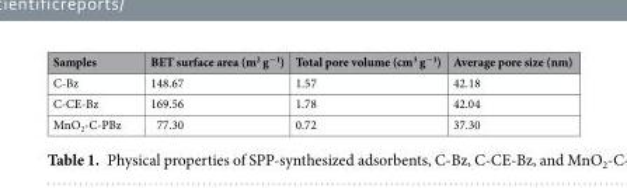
<table><thead><tr><td>Samples</td><td>BET surface area (m<sup>2</sup> g<sup>−1</sup>)</td><td>Total pore volume (cm<sup>3</sup> g<sup>−1</sup>)</td><td>Average pore size (nm)</td></tr></thead><tbody><tr><td>C-Bz</td><td>148.67</td><td>1.57</td><td>42.18</td></tr><tr><td>C-CE-Bz</td><td>169.56</td><td>1.78</td><td>42.04</td></tr><tr><td>MnO<sub>2</sub>-C-PBz</td><td>77.30</td><td>0.72</td><td>37.30</td></tr></tbody></table>